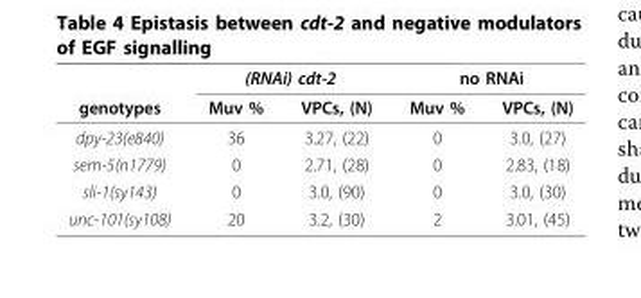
<table><thead><tr><td rowspan="2">genotypes</td><td colspan="2">(RNAi) cdt-2</td><td colspan="2">no RNAi</td></tr><tr><td>Muv %</td><td>VPCs, (N)</td><td>Muv %</td><td>VPCs, (N)</td></tr></thead><tbody><tr><td>dpy-23(e840)</td><td>36</td><td>3.27, (22)</td><td>0</td><td>3.0, (27)</td></tr><tr><td>sem-5(n1779)</td><td>0</td><td>2.71, (28)</td><td>0</td><td>2.83, (18)</td></tr><tr><td>sli-1(sy143)</td><td>0</td><td>3.0, (90)</td><td>0</td><td>3.0, (30)</td></tr><tr><td>unc-101(sy108)</td><td>20</td><td>3.2, (30)</td><td>2</td><td>3.01, (45)</td></tr></tbody></table>